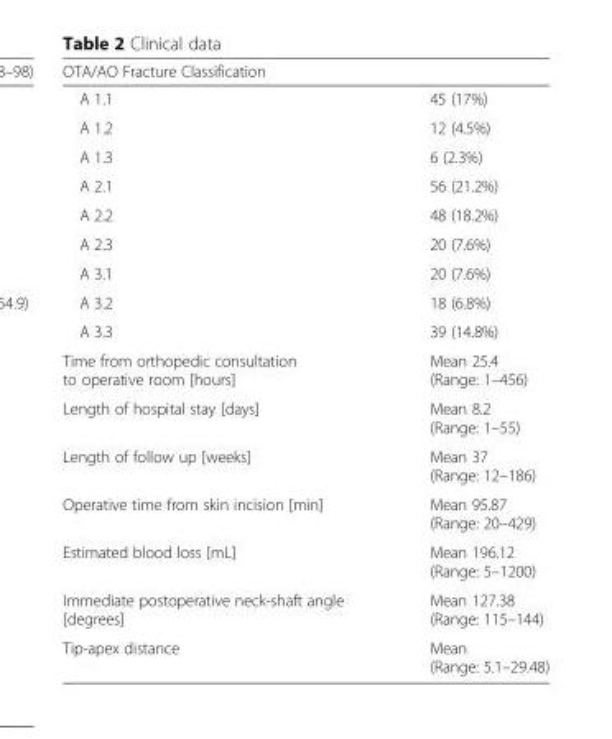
<table><thead><tr><td colspan="2">OTA/AO Fracture Classification</td></tr><tr><td>A 1.1</td><td>45 (17%)</td></tr></thead><tbody><tr><td>A 1.2</td><td>12 (4.5%)</td></tr><tr><td>A 1.3</td><td>6 (2.3%)</td></tr><tr><td>A 2.1</td><td>56 (21.2%)</td></tr><tr><td>A 2.2</td><td>48 (18.2%)</td></tr><tr><td>A 2.3</td><td>20 (7.6%)</td></tr><tr><td>A 3.1</td><td>20 (7.6%)</td></tr><tr><td>A 3.2</td><td>18 (6.8%)</td></tr><tr><td>A 3.3</td><td>39 (14.8%)</td></tr><tr><td>Time from orthopedic consultation to operative room [hours]</td><td>Mean 25.4 (Range: 1–456)</td></tr><tr><td>Length of hospital stay [days]</td><td>Mean 8.2 (Range: 1–55)</td></tr><tr><td>Length of follow up [weeks]</td><td>Mean 37 (Range: 12–186)</td></tr><tr><td>Operative time from skin incision [min]</td><td>Mean 95.87 (Range: 20–429)</td></tr><tr><td>Estimated blood loss [mL]</td><td>Mean 196.12 (Range: 5–1200)</td></tr><tr><td>Immediate postoperative neck-shaft angle [degrees]</td><td>Mean 127.38 (Range: 115–144)</td></tr><tr><td>Tip-apex distance</td><td>Mean (Range: 5.1–29.48)</td></tr></tbody></table>